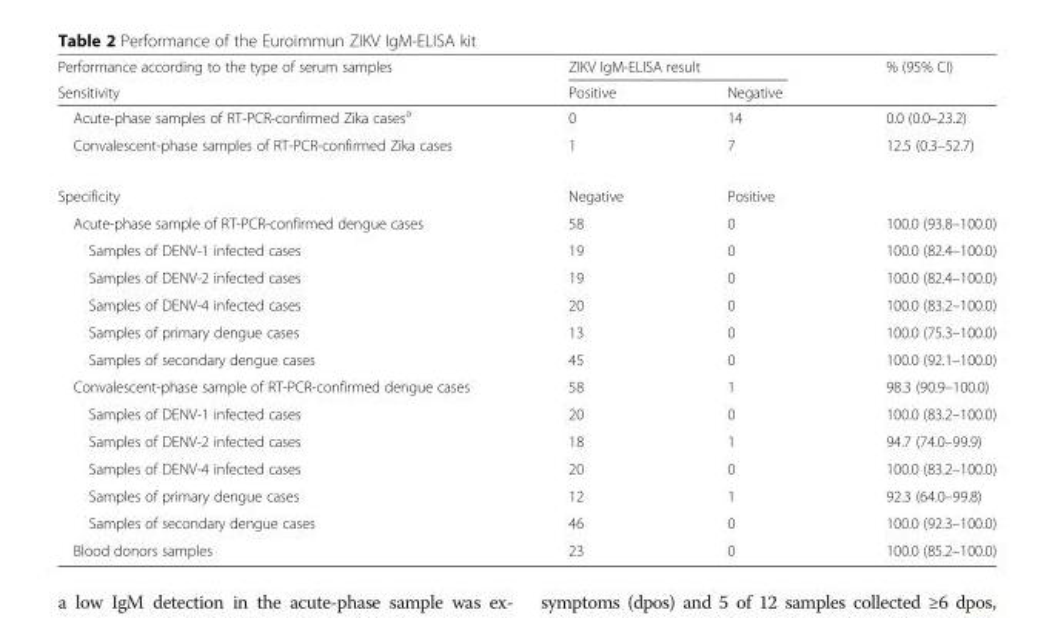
<table><thead><tr><td rowspan="2">Performance according to the type of serum samples Sensitivity</td><td colspan="2">ZIKV IgM-ELISA result</td><td rowspan="2">% (95% CI)</td></tr><tr><td>Positive</td><td>Negative</td></tr></thead><tbody><tr><td>Acute-phase samples of RT-PCR-confirmed Zika cases<sup>a</sup></td><td>0</td><td>14</td><td>0.0 (0.0–23.2)</td></tr><tr><td>Convalescent-phase samples of RT-PCR-confirmed Zika cases</td><td>1</td><td>7</td><td>12.5 (0.3–52.7)</td></tr><tr><td>Specificity</td><td>Negative</td><td>Positive</td><td></td></tr><tr><td>Acute-phase sample of RT-PCR-confirmed dengue cases</td><td>58</td><td>0</td><td>100.0 (93.8–100.0)</td></tr><tr><td>Samples of DENV-1 infected cases</td><td>19</td><td>0</td><td>100.0 (82.4–100.0)</td></tr><tr><td>Samples of DENV-2 infected cases</td><td>19</td><td>0</td><td>100.0 (82.4–100.0)</td></tr><tr><td>Samples of DENV-4 infected cases</td><td>20</td><td>0</td><td>100.0 (83.2–100.0)</td></tr><tr><td>Samples of primary dengue cases</td><td>13</td><td>0</td><td>100.0 (75.3–100.0)</td></tr><tr><td>Samples of secondary dengue cases</td><td>45</td><td>0</td><td>100.0 (92.1–100.0)</td></tr><tr><td>Convalescent-phase sample of RT-PCR-confirmed dengue cases</td><td>58</td><td>1</td><td>98.3 (90.9–100.0)</td></tr><tr><td>Samples of DENV-1 infected cases</td><td>20</td><td>0</td><td>100.0 (83.2–100.0)</td></tr><tr><td>Samples of DENV-2 infected cases</td><td>18</td><td>1</td><td>94.7 (74.0–99.9)</td></tr><tr><td>Samples of DENV-4 infected cases</td><td>20</td><td>0</td><td>100.0 (83.2–100.0)</td></tr><tr><td>Samples of primary dengue cases</td><td>12</td><td>1</td><td>92.3 (64.0–99.8)</td></tr><tr><td>Samples of secondary dengue cases</td><td>46</td><td>0</td><td>100.0 (92.3–100.0)</td></tr><tr><td>Blood donors samples</td><td>23</td><td>0</td><td>100.0 (85.2–100.0)</td></tr></tbody></table>